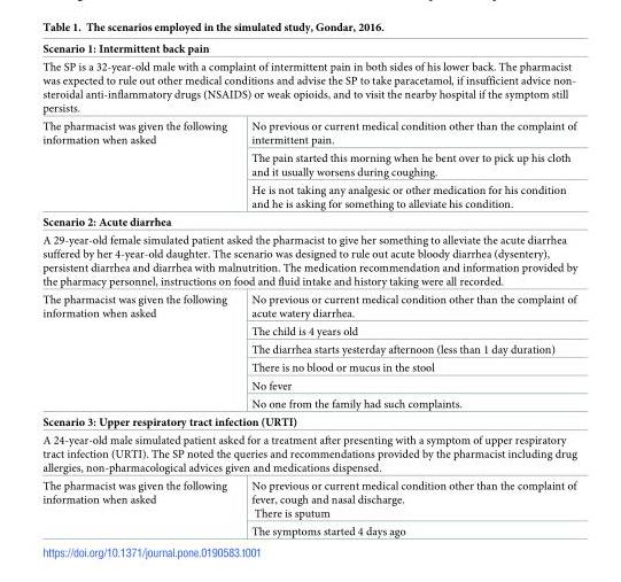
<table><tbody><tr><td colspan="2">Scenario 1: Intermittent back pain</td></tr><tr><td colspan="2">The SP is a 32-year-old male with a complaint of intermittent pain in both sides of his lower back. The pharmacist was expected to rule out other medical conditions and advise the SP to take paracetamol, if insufficient advice non- steroidal anti-inflammatory drugs (NSAIDS) or weak opioids, and to visit the nearby hospital if the symptom still persists.</td></tr><tr><td rowspan="3">The pharmacist was given the following information when asked</td><td>No previous or current medical condition other than the complaint of intermittent pain.</td></tr><tr><td>The pain started this morning when he bent over to pick up his cloth and it usually worsens during coughing.</td></tr><tr><td>He is not taking any analgesic or other medication for his condition and he is asking for something to alleviate his condition.</td></tr><tr><td colspan="2">Scenario 2: Acute diarrhea</td></tr><tr><td colspan="2">A 29-year-old female simulated patient asked the pharmacist to give her something to alleviate the acute diarrhea suffered by her 4-year-old daughter. The scenario was designed to rule out acute bloody diarrhea (dysentery), persistent diarrhea and diarrhea with malnutrition. The medication recommendation and information provided by the pharmacy personnel, instructions on food and fluid intake and history taking were all recorded.</td></tr><tr><td rowspan="6">The pharmacist was given the following information when asked</td><td>No previous or current medical condition other than the complaint of acute watery diarrhea.</td></tr><tr><td>The child is 4 years old</td></tr><tr><td>The diarrhea starts yesterday afternoon (less than 1 day duration)</td></tr><tr><td>There is no blood or mucus in the stool</td></tr><tr><td>No fever</td></tr><tr><td>No one from the family had such complaints.</td></tr><tr><td colspan="2">Scenario 3: Upper respiratory tract infection (URTI)</td></tr><tr><td colspan="2">A 24-year-old male simulated patient asked for a treatment after presenting with a symptom of upper respiratory tract infection (URTI). The SP noted the queries and recommendations provided by the pharmacist including drug allergies, non-pharmacological advices given and medications dispensed.</td></tr><tr><td rowspan="2">The pharmacist was given the following information when asked</td><td>No previous or current medical condition other than the complaint of fever, cough and nasal discharge. There is sputum</td></tr><tr><td>The symptoms started 4 days ago</td></tr></tbody></table>